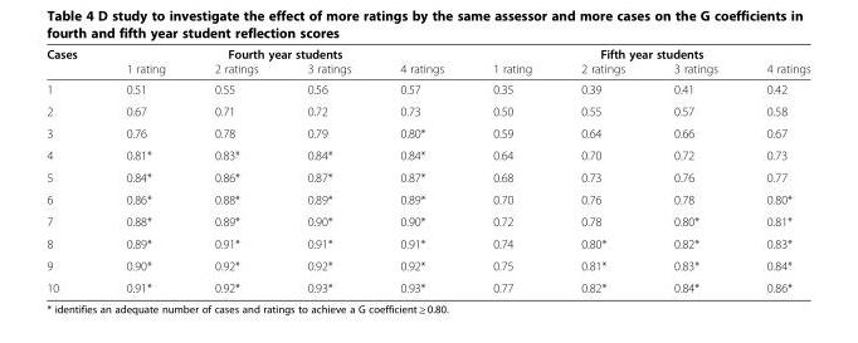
<table><thead><tr><td rowspan="2">Cases</td><td colspan="4">Fourth year students</td><td colspan="4">Fifth year students</td></tr><tr><td>1 rating</td><td>2 ratings</td><td>3 ratings</td><td>4 ratings</td><td>1 rating</td><td>2 ratings</td><td>3 ratings</td><td>4 ratings</td></tr></thead><tbody><tr><td>1</td><td>0.51</td><td>0.55</td><td>0.56</td><td>0.57</td><td>0.35</td><td>0.39</td><td>0.41</td><td>0.42</td></tr><tr><td>2</td><td>0.67</td><td>0.71</td><td>0.72</td><td>0.73</td><td>0.50</td><td>0.55</td><td>0.57</td><td>0.58</td></tr><tr><td>3</td><td>0.76</td><td>0.78</td><td>0.79</td><td>0.80*</td><td>0.59</td><td>0.64</td><td>0.66</td><td>0.67</td></tr><tr><td>4</td><td>0.81*</td><td>0.83*</td><td>0.84*</td><td>0.84*</td><td>0.64</td><td>0.70</td><td>0.72</td><td>0.73</td></tr><tr><td>5</td><td>0.84*</td><td>0.86*</td><td>0.87*</td><td>0.87*</td><td>0.68</td><td>0.73</td><td>0.76</td><td>0.77</td></tr><tr><td>6</td><td>0.86*</td><td>0.88*</td><td>0.89*</td><td>0.89*</td><td>0.70</td><td>0.76</td><td>0.78</td><td>0.80*</td></tr><tr><td>7</td><td>0.88*</td><td>0.89*</td><td>0.90*</td><td>0.90*</td><td>0.72</td><td>0.78</td><td>0.80*</td><td>0.81*</td></tr><tr><td>8</td><td>0.89*</td><td>0.91*</td><td>0.91*</td><td>0.91*</td><td>0.74</td><td>0.80*</td><td>0.82*</td><td>0.83*</td></tr><tr><td>9</td><td>0.90*</td><td>0.92*</td><td>0.92*</td><td>0.92*</td><td>0.75</td><td>0.81*</td><td>0.83*</td><td>0.84*</td></tr><tr><td>10</td><td>0.91*</td><td>0.92*</td><td>0.93*</td><td>0.93*</td><td>0.77</td><td>0.82*</td><td>0.84*</td><td>0.86*</td></tr></tbody></table>